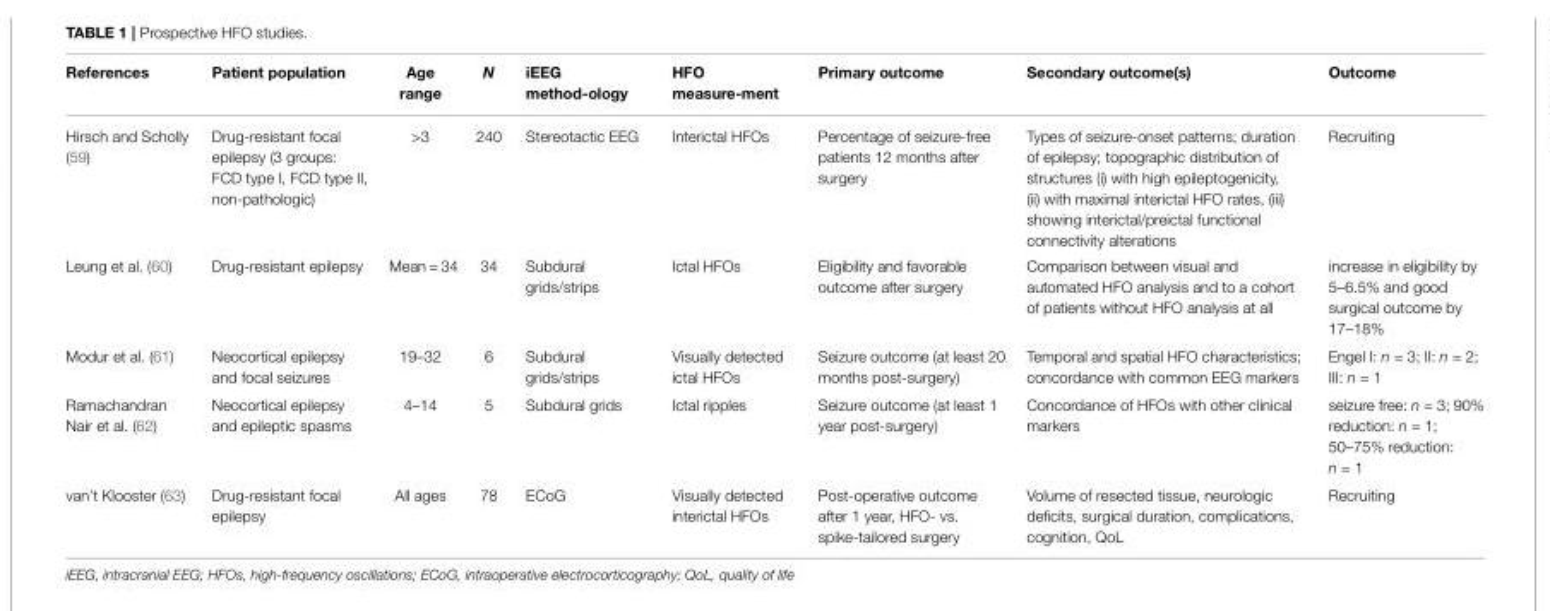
<table><thead><tr><td>References</td><td>Patient population</td><td>Age range</td><td>N</td><td>iEEG method-ology</td><td>HFO measure-ment</td><td>Primary outcome</td><td>Secondary outcome(s)</td><td>Outcome</td></tr></thead><tbody><tr><td>Hirsch and Scholly (59)</td><td>Drug-resistant focal epilepsy (3 groups: FCD type I, FCD type II, non-pathologic)</td><td>&gt;3</td><td>240</td><td>Stereotactic EEG</td><td>Interictal HFOs</td><td>Percentage of seizure-free patients 12 months after surgery</td><td>Types of seizure-onset patterns; duration of epilepsy; topographic distribution of structures (i) with high epileptogenicity, (ii) with maximal interictal HFO rates, (iii) showing interictal/preictal functional connectivity alterations</td><td>Recruiting</td></tr><tr><td>Leung et al. (60)</td><td>Drug-resistant epilepsy</td><td>Mean = 34</td><td>34</td><td>Subdural grids/strips</td><td>Ictal HFOs</td><td>Eligibility and favorable outcome after surgery</td><td>Comparison between visual and automated HFO analysis and to a cohort of patients without HFO analysis at all</td><td>increase in eligibility by 5–6.5% and good surgical outcome by 17–18%</td></tr><tr><td>Modur et al. (61)</td><td>Neocortical epilepsy and focal seizures</td><td>19–32</td><td>6</td><td>Subdural grids/strips</td><td>Visually detected ictal HFOs</td><td>Seizure outcome (at least 20 months post-surgery)</td><td>Temporal and spatial HFO characteristics; concordance with common EEG markers</td><td>Engel I: n = 3; II: n = 2; III: n = 1</td></tr><tr><td>Ramachandran Nair et al. (62)</td><td>Neocortical epilepsy and epileptic spasms</td><td>4–14</td><td>5</td><td>Subdural grids</td><td>Ictal ripples</td><td>Seizure outcome (at least 1 year post-surgery)</td><td>Concordance of HFOs with other clinical markers</td><td>seizure free: n = 3; 90% reduction: n = 1; 50–75% reduction: n = 1</td></tr><tr><td>van’t Klooster (63)</td><td>Drug-resistant focal epilepsy</td><td>All ages</td><td>78</td><td>ECoG</td><td>Visually detected interictal HFOs</td><td>Post-operative outcome after 1 year, HFO- vs. spike-tailored surgery</td><td>Volume of resected tissue, neurologic deficits, surgical duration, complications, cognition, QoL</td><td>Recruiting</td></tr></tbody></table>